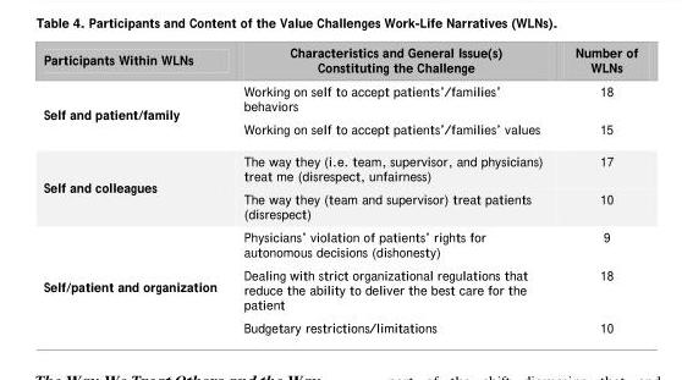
<table><thead><tr><td>Participants Within WLNs</td><td>Characteristics and General Issue(s) Constituting the Challenge</td><td>Number of WLNs</td></tr></thead><tbody><tr><td rowspan="2">Self and patient/family</td><td>Working on self to accept patients’/families’ behaviors</td><td>18</td></tr><tr><td>Working on self to accept patients’/families’ values</td><td>15</td></tr><tr><td rowspan="2">Self and colleagues</td><td>The way they (i.e. team, supervisor, and physicians) treat me (disrespect, unfairness)</td><td>17</td></tr><tr><td>The way they (team and supervisor) treat patients (disrespect)</td><td>10</td></tr><tr><td rowspan="3">Self/patient and organization</td><td>Physicians’ violation of patients’ rights for autonomous decisions (dishonesty)</td><td>9</td></tr><tr><td>Dealing with strict organizational regulations that reduce the ability to deliver the best care for the patient</td><td>18</td></tr><tr><td>Budgetary restrictions/limitations</td><td>10</td></tr></tbody></table>